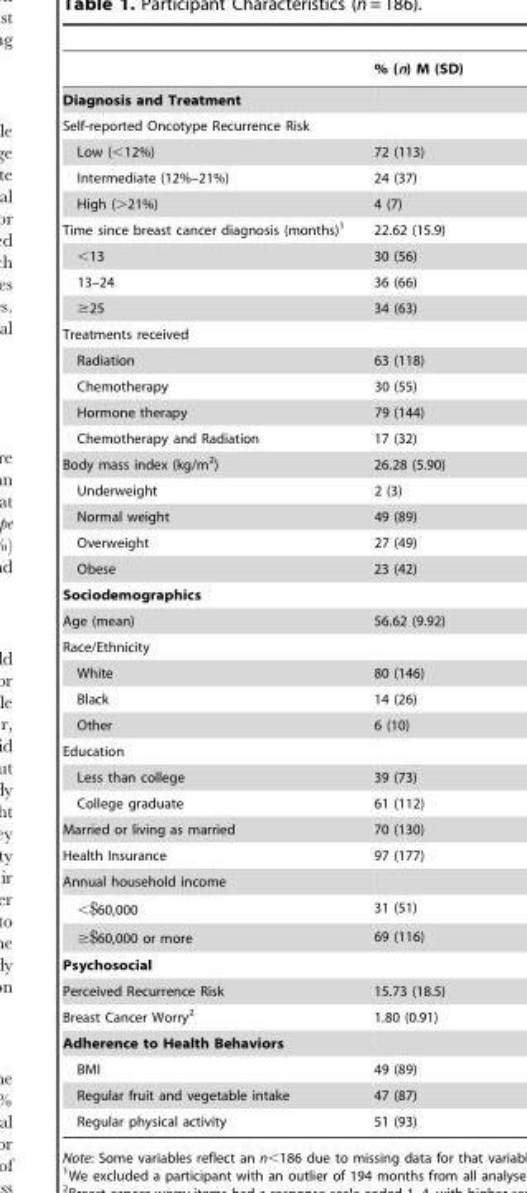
<table><thead><tr><td></td><td>% (n) M (SD)</td></tr></thead><tbody><tr><td colspan="2">Diagnosis and Treatment</td></tr><tr><td colspan="2">Self-reported Oncotype Recurrence Risk</td></tr><tr><td>Low (&lt;12%)</td><td>72 (113)</td></tr><tr><td>Intermediate (12%–21%)</td><td>24 (37)</td></tr><tr><td>High (&gt;21%)</td><td>4 (7)</td></tr><tr><td>Time since breast cancer diagnosis (months)<sup>1</sup></td><td>22.62 (15.9)</td></tr><tr><td>&lt;13</td><td>30 (56)</td></tr><tr><td>13–24</td><td>36 (66)</td></tr><tr><td>≥25</td><td>34 (63)</td></tr><tr><td colspan="2">Treatments received</td></tr><tr><td>Radiation</td><td>63 (118)</td></tr><tr><td>Chemotherapy</td><td>30 (55)</td></tr><tr><td>Hormone therapy</td><td>79 (144)</td></tr><tr><td>Chemotherapy and Radiation</td><td>17 (32)</td></tr><tr><td>Body mass index (kg/m<sup>2</sup>)</td><td>26.28 (5.90)</td></tr><tr><td>Underweight</td><td>2 (3)</td></tr><tr><td>Normal weight</td><td>49 (89)</td></tr><tr><td>Overweight</td><td>27 (49)</td></tr><tr><td>Obese</td><td>23 (42)</td></tr><tr><td colspan="2">Sociodemographics</td></tr><tr><td>Age (mean)</td><td>56.62 (9.92)</td></tr><tr><td colspan="2">Race/Ethnicity</td></tr><tr><td>White</td><td>80 (146)</td></tr><tr><td>Black</td><td>14 (26)</td></tr><tr><td>Other</td><td>6 (10)</td></tr><tr><td colspan="2">Education</td></tr><tr><td>Less than college</td><td>39 (73)</td></tr><tr><td>College graduate</td><td>61 (112)</td></tr><tr><td>Married or living as married</td><td>70 (130)</td></tr><tr><td>Health Insurance</td><td>97 (177)</td></tr><tr><td colspan="2">Annual household income</td></tr><tr><td>&lt;$60,000</td><td>31 (51)</td></tr><tr><td>≥$60,000 or more</td><td>69 (116)</td></tr><tr><td colspan="2">Psychosocial</td></tr><tr><td>Perceived Recurrence Risk</td><td>15.73 (18.5)</td></tr><tr><td>Breast Cancer Worry<sup>2</sup></td><td>1.80 (0.91)</td></tr><tr><td colspan="2">Adherence to Health Behaviors</td></tr><tr><td>BMI</td><td>49 (89)</td></tr><tr><td>Regular fruit and vegetable intake</td><td>47 (87)</td></tr><tr><td>Regular physical activity</td><td>51 (93)</td></tr></tbody></table>